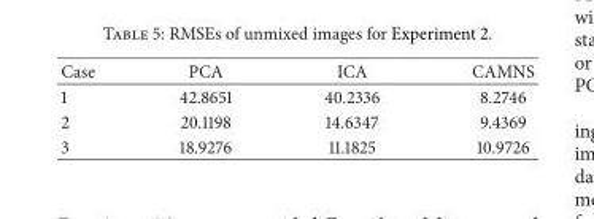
<table><thead><tr><td>Case</td><td>PCA</td><td>ICA</td><td>CAMNS</td></tr></thead><tbody><tr><td>1</td><td>42.8651</td><td>40.2336</td><td>8.2746</td></tr><tr><td>2</td><td>20.1198</td><td>14.6347</td><td>9.4369</td></tr><tr><td>3</td><td>18.9276</td><td>11.1825</td><td>10.9726</td></tr></tbody></table>